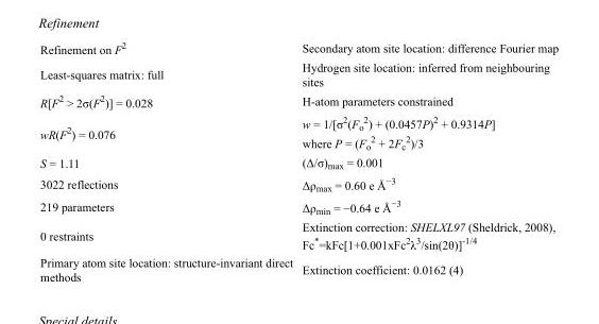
<table><tbody><tr><td>Refinement on F<sup>2</sup></td><td>Secondary atom site location: difference Fourier map</td></tr><tr><td>Least-squares matrix: full</td><td>Hydrogen site location: inferred from neighbouring sites</td></tr><tr><td>R[F<sup>2</sup> &gt; 2σ(F<sup>2</sup>)] = 0.028</td><td>H-atom parameters constrained</td></tr><tr><td>wR(F<sup>2</sup>) = 0.076</td><td>w = 1/[σ<sup>2</sup>(F<sub>o</sub> <sup>2</sup>) + (0.0457P)<sup>2</sup> + 0.9314P] where P = (F<sub>o</sub> <sup>2</sup> + 2F<sub>c</sub> <sup>2</sup>)/3</td></tr><tr><td>S = 1.11</td><td>(Δ/σ)<sub>max</sub> = 0.001</td></tr><tr><td>3022 reflections</td><td>Δρ<sub>max</sub> = 0.60 e Å<sup>−3</sup></td></tr><tr><td>219 parameters</td><td>Δρ<sub>min</sub> = −0.64 e Å<sup>−3</sup></td></tr><tr><td>0 restraints</td><td>Extinction correction: SHELXL97 (Sheldrick, 2008), Fc*=kFc[1+0.001xFc<sup>2</sup>λ<sup>3</sup>/sin(2θ)]<sup>-1/4</sup></td></tr><tr><td>Primary atom site location: structure-invariant direct methods</td><td>Extinction coefficient: 0.0162 (4)</td></tr></tbody></table>